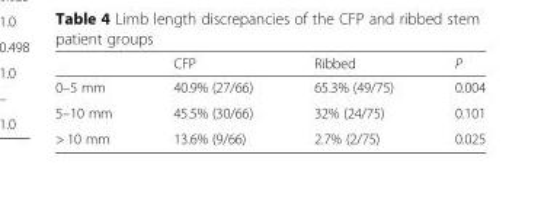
<table><thead><tr><td></td><td>CFP</td><td>Ribbed</td><td>P</td></tr></thead><tbody><tr><td>0–5 mm</td><td>40.9% (27/66)</td><td>65.3% (49/75)</td><td>0.004</td></tr><tr><td>5–10 mm</td><td>45.5% (30/66)</td><td>32% (24/75)</td><td>0.101</td></tr><tr><td>&gt; 10 mm</td><td>13.6% (9/66)</td><td>2.7% (2/75)</td><td>0.025</td></tr></tbody></table>